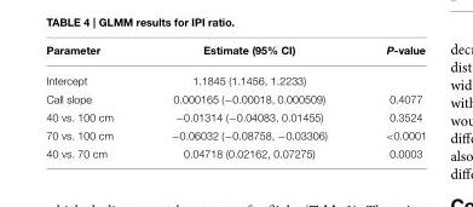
<table><thead><tr><td>Parameter</td><td>Estimate (95% CI)</td><td>P-value</td></tr></thead><tbody><tr><td>Intercept</td><td>1.1845 (1.1456, 1.2233)</td><td></td></tr><tr><td>Call slope</td><td>0.000165 (−0.00018, 0.000509)</td><td>0.4077</td></tr><tr><td>40 vs. 100 cm</td><td>−0.01314 (−0.04083, 0.01455)</td><td>0.3524</td></tr><tr><td>70 vs. 100 cm</td><td>−0.06032 (−0.08758, −0.03306)</td><td>&lt;0.0001</td></tr><tr><td>40 vs. 70 cm</td><td>0.04718 (0.02162, 0.07275)</td><td>0.0003</td></tr></tbody></table>